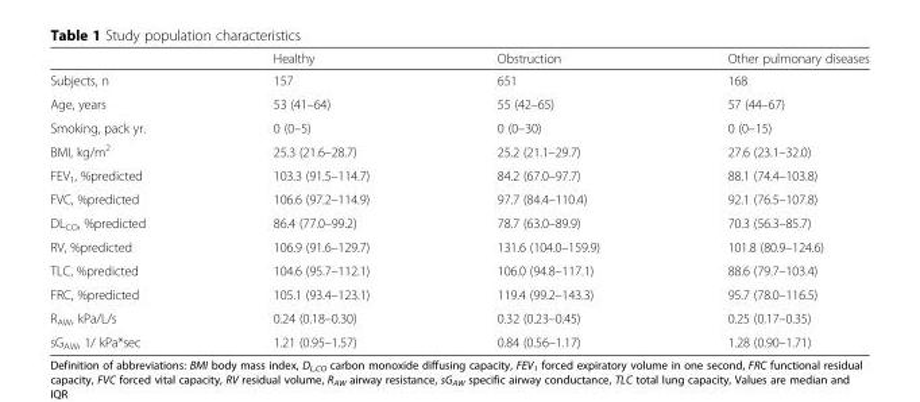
<table><thead><tr><td></td><td>Healthy</td><td>Obstruction</td><td>Other pulmonary diseases</td></tr></thead><tbody><tr><td>Subjects, n</td><td>157</td><td>651</td><td>168</td></tr><tr><td>Age, years</td><td>53 (41–64)</td><td>55 (42–65)</td><td>57 (44–67)</td></tr><tr><td>Smoking, pack yr.</td><td>0 (0–5)</td><td>0 (0–30)</td><td>0 (0–15)</td></tr><tr><td>BMI, kg/m<sup>2</sup></td><td>25.3 (21.6–28.7)</td><td>25.2 (21.1–29.7)</td><td>27.6 (23.1–32.0)</td></tr><tr><td>FEV<sub>1</sub>, %predicted</td><td>103.3 (91.5–114.7)</td><td>84.2 (67.0–97.7)</td><td>88.1 (74.4–103.8)</td></tr><tr><td>FVC, %predicted</td><td>106.6 (97.2–114.9)</td><td>97.7 (84.4–110.4)</td><td>92.1 (76.5–107.8)</td></tr><tr><td>DL<sub>CO</sub>, %predicted</td><td>86.4 (77.0–99.2)</td><td>78.7 (63.0–89.9)</td><td>70.3 (56.3–85.7)</td></tr><tr><td>RV, %predicted</td><td>106.9 (91.6–129.7)</td><td>131.6 (104.0–159.9)</td><td>101.8 (80.9–124.6)</td></tr><tr><td>TLC, %predicted</td><td>104.6 (95.7–112.1)</td><td>106.0 (94.8–117.1)</td><td>88.6 (79.7–103.4)</td></tr><tr><td>FRC, %predicted</td><td>105.1 (93.4–123.1)</td><td>119.4 (99.2–143.3)</td><td>95.7 (78.0–116.5)</td></tr><tr><td>R<sub>AW</sub>, kPa/L/s</td><td>0.24 (0.18–0.30)</td><td>0.32 (0.23–0.45)</td><td>0.25 (0.17–0.35)</td></tr><tr><td>sG<sub>AW</sub>, 1/ kPa*sec</td><td>1.21 (0.95–1.57)</td><td>0.84 (0.56–1.17)</td><td>1.28 (0.90–1.71)</td></tr></tbody></table>